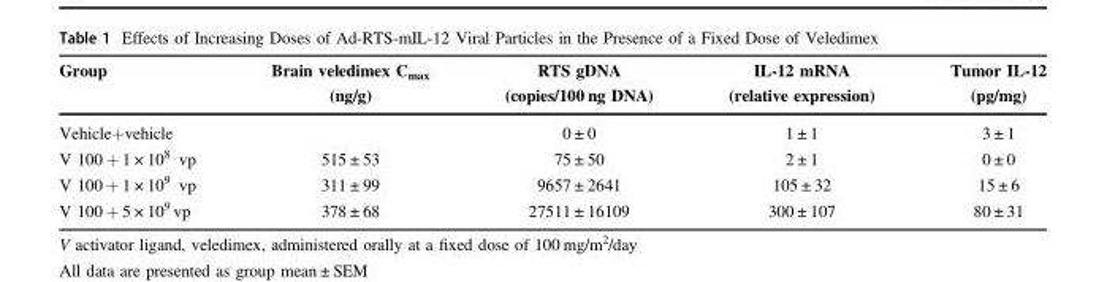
<table><thead><tr><td rowspan="2">Group</td><td rowspan="2">Brain veledimex C<sub>max</sub> (ng/g)</td><td rowspan="2">RTS gDNA (copies/100 ng DNA)</td><td rowspan="2">IL-12 mRNA (relative expression)</td><td rowspan="2">Tumor IL-12 (pg/mg)</td></tr><tr></tr></thead><tbody><tr><td>Vehicle+vehicle</td><td></td><td>0 ± 0</td><td>1 ± 1</td><td>3 ± 1</td></tr><tr><td>V 100 + 1 × 10<sup>8</sup> vp</td><td>515 ± 53</td><td>75 ± 50</td><td>2 ± 1</td><td>0 ± 0</td></tr><tr><td>V 100 + 1 × 10<sup>9</sup> vp</td><td>311 ± 99</td><td>9657 ± 2641</td><td>105 ± 32</td><td>15 ± 6</td></tr><tr><td>V 100 + 5 × 10<sup>9</sup> vp</td><td>378 ± 68</td><td>27511 ± 16109</td><td>300 ± 107</td><td>80 ± 31</td></tr></tbody></table>